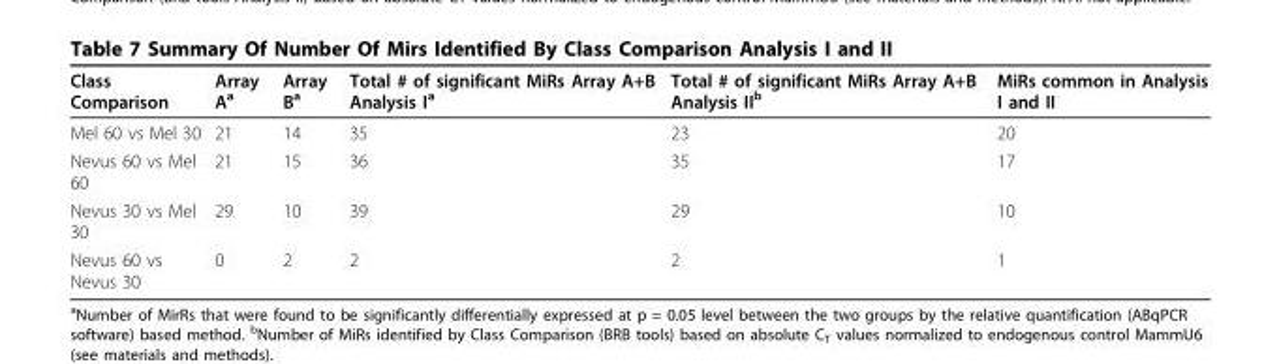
<table><thead><tr><td>Class Comparison</td><td>Array A<sup>a</sup></td><td>Array B<sup>a</sup></td><td>Total # of significant MiRs Array A+B Analysis I<sup>a</sup></td><td>Total # of significant MiRs Array A+B Analysis II<sup>b</sup></td><td>MiRs common in Analysis I and II</td></tr></thead><tbody><tr><td>Mel 60 vs Mel 30</td><td>21</td><td>14</td><td>35</td><td>23</td><td>20</td></tr><tr><td>Nevus 60 vs Mel 60</td><td>21</td><td>15</td><td>36</td><td>35</td><td>17</td></tr><tr><td>Nevus 30 vs Mel 30</td><td>29</td><td>10</td><td>39</td><td>29</td><td>10</td></tr><tr><td>Nevus 60 vs Nevus 30</td><td>0</td><td>2</td><td>2</td><td>2</td><td>1</td></tr></tbody></table>